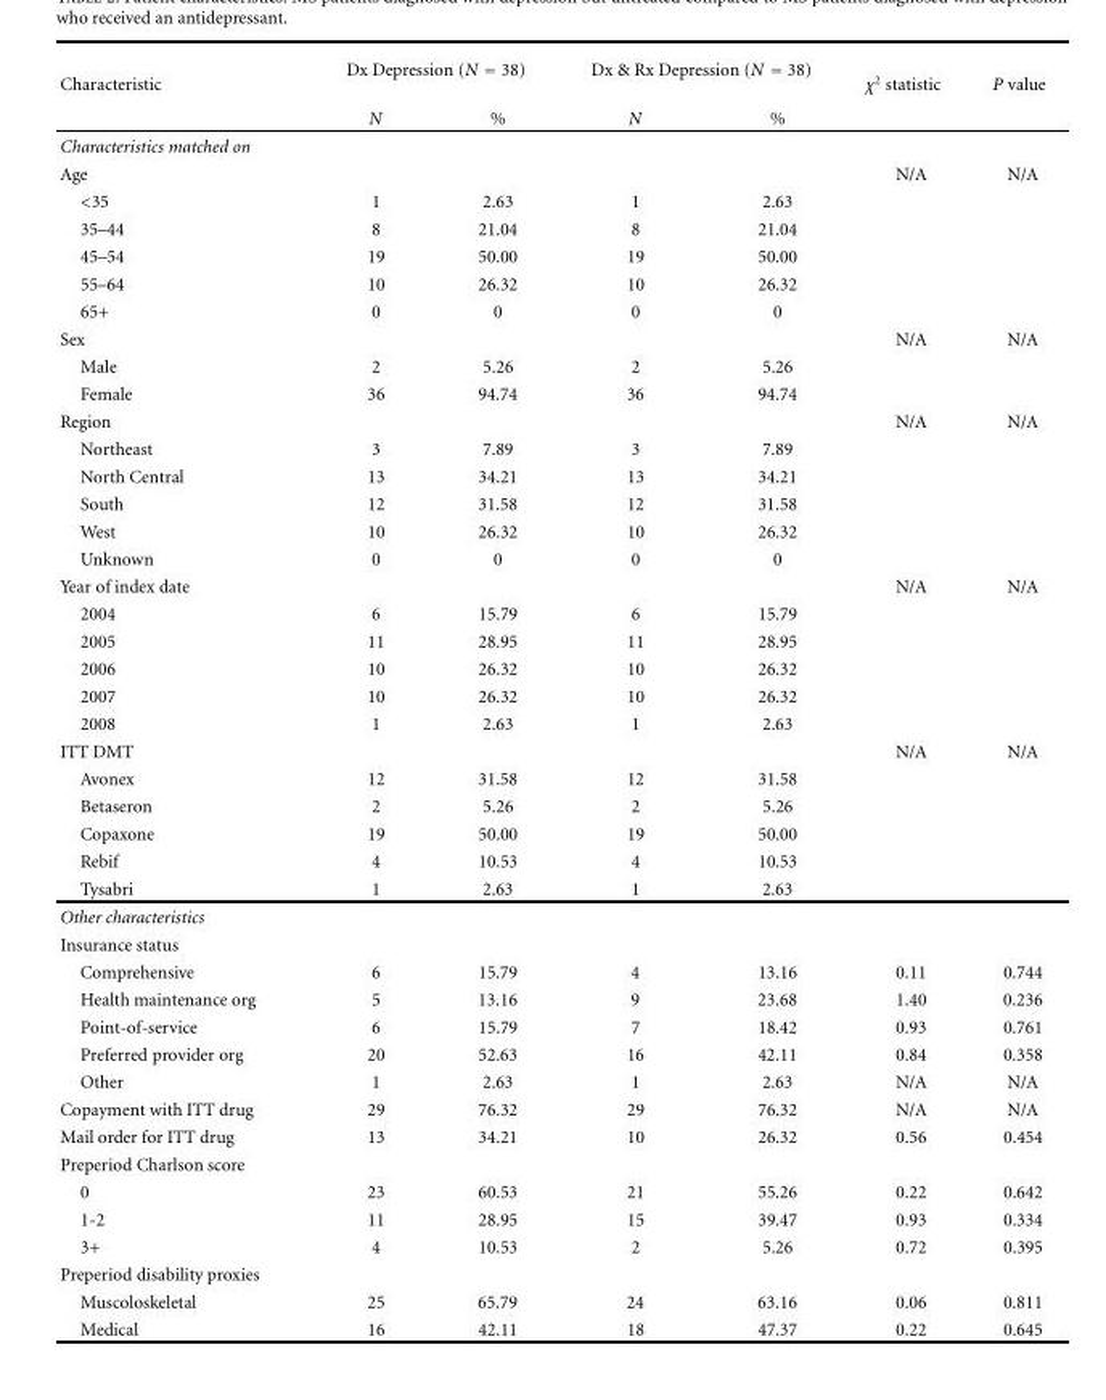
<table><thead><tr><td rowspan="2">Characteristic</td><td colspan="2">Dx Depression (N = 38)</td><td colspan="2">Dx &amp; Rx Depression (N = 38)</td><td rowspan="2">χ<sup>2</sup> statistic</td><td rowspan="2">P value</td></tr><tr><td>N</td><td>%</td><td>N</td><td>%</td></tr></thead><tbody><tr><td colspan="7">Characteristics matched on</td></tr><tr><td>Age</td><td></td><td></td><td></td><td></td><td>N/A</td><td>N/A</td></tr><tr><td>&lt;35</td><td>1</td><td>2.63</td><td>1</td><td>2.63</td><td></td><td></td></tr><tr><td>35–44</td><td>8</td><td>21.04</td><td>8</td><td>21.04</td><td></td><td></td></tr><tr><td>45–54</td><td>19</td><td>50.00</td><td>19</td><td>50.00</td><td></td><td></td></tr><tr><td>55–64</td><td>10</td><td>26.32</td><td>10</td><td>26.32</td><td></td><td></td></tr><tr><td>65+</td><td>0</td><td>0</td><td>0</td><td>0</td><td></td><td></td></tr><tr><td>Sex</td><td></td><td></td><td></td><td></td><td>N/A</td><td>N/A</td></tr><tr><td>Male</td><td>2</td><td>5.26</td><td>2</td><td>5.26</td><td></td><td></td></tr><tr><td>Female</td><td>36</td><td>94.74</td><td>36</td><td>94.74</td><td></td><td></td></tr><tr><td>Region</td><td></td><td></td><td></td><td></td><td>N/A</td><td>N/A</td></tr><tr><td>Northeast</td><td>3</td><td>7.89</td><td>3</td><td>7.89</td><td></td><td></td></tr><tr><td>North Central</td><td>13</td><td>34.21</td><td>13</td><td>34.21</td><td></td><td></td></tr><tr><td>South</td><td>12</td><td>31.58</td><td>12</td><td>31.58</td><td></td><td></td></tr><tr><td>West</td><td>10</td><td>26.32</td><td>10</td><td>26.32</td><td></td><td></td></tr><tr><td>Unknown</td><td>0</td><td>0</td><td>0</td><td>0</td><td></td><td></td></tr><tr><td>Year of index date</td><td></td><td></td><td></td><td></td><td>N/A</td><td>N/A</td></tr><tr><td>2004</td><td>6</td><td>15.79</td><td>6</td><td>15.79</td><td></td><td></td></tr><tr><td>2005</td><td>11</td><td>28.95</td><td>11</td><td>28.95</td><td></td><td></td></tr><tr><td>2006</td><td>10</td><td>26.32</td><td>10</td><td>26.32</td><td></td><td></td></tr><tr><td>2007</td><td>10</td><td>26.32</td><td>10</td><td>26.32</td><td></td><td></td></tr><tr><td>2008</td><td>1</td><td>2.63</td><td>1</td><td>2.63</td><td></td><td></td></tr><tr><td>ITT DMT</td><td></td><td></td><td></td><td></td><td>N/A</td><td>N/A</td></tr><tr><td>Avonex</td><td>12</td><td>31.58</td><td>12</td><td>31.58</td><td></td><td></td></tr><tr><td>Betaseron</td><td>2</td><td>5.26</td><td>2</td><td>5.26</td><td></td><td></td></tr><tr><td>Copaxone</td><td>19</td><td>50.00</td><td>19</td><td>50.00</td><td></td><td></td></tr><tr><td>Rebif</td><td>4</td><td>10.53</td><td>4</td><td>10.53</td><td></td><td></td></tr><tr><td>Tysabri</td><td>1</td><td>2.63</td><td>1</td><td>2.63</td><td></td><td></td></tr><tr><td colspan="7">Other characteristics</td></tr><tr><td colspan="7">Insurance status</td></tr><tr><td>Comprehensive</td><td>6</td><td>15.79</td><td>4</td><td>13.16</td><td>0.11</td><td>0.744</td></tr><tr><td>Health maintenance org</td><td>5</td><td>13.16</td><td>9</td><td>23.68</td><td>1.40</td><td>0.236</td></tr><tr><td>Point-of-service</td><td>6</td><td>15.79</td><td>7</td><td>18.42</td><td>0.93</td><td>0.761</td></tr><tr><td>Preferred provider org</td><td>20</td><td>52.63</td><td>16</td><td>42.11</td><td>0.84</td><td>0.358</td></tr><tr><td>Other</td><td>1</td><td>2.63</td><td>1</td><td>2.63</td><td>N/A</td><td>N/A</td></tr><tr><td>Copayment with ITT drug</td><td>29</td><td>76.32</td><td>29</td><td>76.32</td><td>N/A</td><td>N/A</td></tr><tr><td>Mail order for ITT drug</td><td>13</td><td>34.21</td><td>10</td><td>26.32</td><td>0.56</td><td>0.454</td></tr><tr><td colspan="7">Preperiod Charlson score</td></tr><tr><td>0</td><td>23</td><td>60.53</td><td>21</td><td>55.26</td><td>0.22</td><td>0.642</td></tr><tr><td>1-2</td><td>11</td><td>28.95</td><td>15</td><td>39.47</td><td>0.93</td><td>0.334</td></tr><tr><td>3+</td><td>4</td><td>10.53</td><td>2</td><td>5.26</td><td>0.72</td><td>0.395</td></tr><tr><td colspan="7">Preperiod disability proxies</td></tr><tr><td>Muscoloskeletal</td><td>25</td><td>65.79</td><td>24</td><td>63.16</td><td>0.06</td><td>0.811</td></tr><tr><td>Medical</td><td>16</td><td>42.11</td><td>18</td><td>47.37</td><td>0.22</td><td>0.645</td></tr></tbody></table>